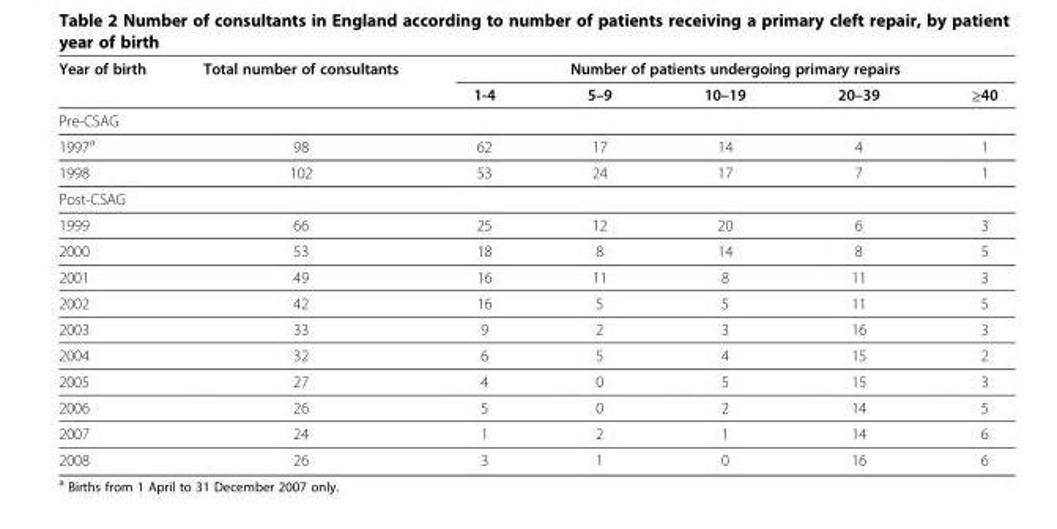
<table><thead><tr><td rowspan="2">Year of birth</td><td rowspan="2">Total number of consultants</td><td colspan="5">Number of patients undergoing primary repairs</td></tr><tr><td>1-4</td><td>5–9</td><td>10–19</td><td>20–39</td><td>≥40</td></tr></thead><tbody><tr><td colspan="7">Pre-CSAG</td></tr><tr><td>1997<sup>a</sup></td><td>98</td><td>62</td><td>17</td><td>14</td><td>4</td><td>1</td></tr><tr><td>1998</td><td>102</td><td>53</td><td>24</td><td>17</td><td>7</td><td>1</td></tr><tr><td colspan="7">Post-CSAG</td></tr><tr><td>1999</td><td>66</td><td>25</td><td>12</td><td>20</td><td>6</td><td>3</td></tr><tr><td>2000</td><td>53</td><td>18</td><td>8</td><td>14</td><td>8</td><td>5</td></tr><tr><td>2001</td><td>49</td><td>16</td><td>11</td><td>8</td><td>11</td><td>3</td></tr><tr><td>2002</td><td>42</td><td>16</td><td>5</td><td>5</td><td>11</td><td>5</td></tr><tr><td>2003</td><td>33</td><td>9</td><td>2</td><td>3</td><td>16</td><td>3</td></tr><tr><td>2004</td><td>32</td><td>6</td><td>5</td><td>4</td><td>15</td><td>2</td></tr><tr><td>2005</td><td>27</td><td>4</td><td>0</td><td>5</td><td>15</td><td>3</td></tr><tr><td>2006</td><td>26</td><td>5</td><td>0</td><td>2</td><td>14</td><td>5</td></tr><tr><td>2007</td><td>24</td><td>1</td><td>2</td><td>1</td><td>14</td><td>6</td></tr><tr><td>2008</td><td>26</td><td>3</td><td>1</td><td>0</td><td>16</td><td>6</td></tr></tbody></table>